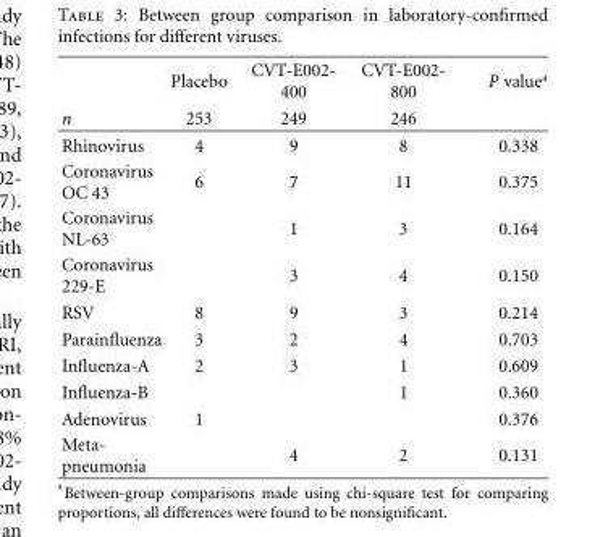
<table><thead><tr><td rowspan="2">n</td><td rowspan="2">Placebo 253</td><td rowspan="2">CVT-E002- 400 249</td><td rowspan="2">CVT-E002- 800 246</td><td rowspan="2">P value<sup>a</sup></td></tr><tr></tr></thead><tbody><tr><td>Rhinovirus</td><td>4</td><td>9</td><td>8</td><td>0.338</td></tr><tr><td>Coronavirus OC 43</td><td>6</td><td>7</td><td>11</td><td>0.375</td></tr><tr><td>Coronavirus NL-63</td><td></td><td>1</td><td>3</td><td>0.164</td></tr><tr><td>Coronavirus 229-E</td><td></td><td>3</td><td>4</td><td>0.150</td></tr><tr><td>RSV</td><td>8</td><td>9</td><td>3</td><td>0.214</td></tr><tr><td>Parainfluenza</td><td>3</td><td>2</td><td>4</td><td>0.703</td></tr><tr><td>Influenza-A</td><td>2</td><td>3</td><td>1</td><td>0.609</td></tr><tr><td>Influenza-B</td><td></td><td></td><td>1</td><td>0.360</td></tr><tr><td>Adenovirus</td><td>1</td><td></td><td></td><td>0.376</td></tr><tr><td>Meta- pneumonia</td><td></td><td>4</td><td>2</td><td>0.131</td></tr></tbody></table>